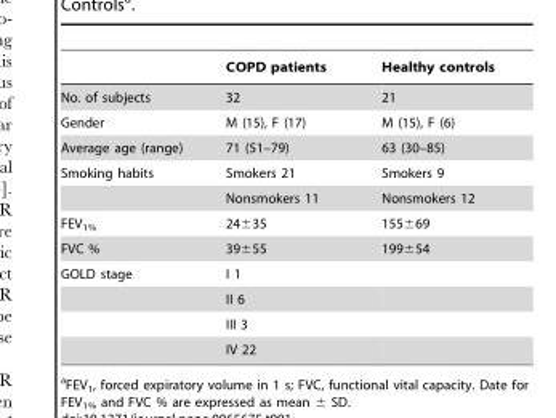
<table><thead><tr><td></td><td>COPD patients</td><td>Healthy controls</td></tr></thead><tbody><tr><td>No. of subjects</td><td>32</td><td>21</td></tr><tr><td>Gender</td><td>M (15), F (17)</td><td>M (15), F (6)</td></tr><tr><td>Average age (range)</td><td>71 (51–79)</td><td>63 (30–85)</td></tr><tr><td rowspan="2">Smoking habits</td><td>Smokers 21</td><td>Smokers 9</td></tr><tr><td>Nonsmokers 11</td><td>Nonsmokers 12</td></tr><tr><td>FEV<sub>1%</sub></td><td>24±35</td><td>155±69</td></tr><tr><td>FVC %</td><td>39±55</td><td>199±54</td></tr><tr><td rowspan="4">GOLD stage</td><td>I 1</td><td></td></tr><tr><td>II 6</td><td></td></tr><tr><td>III 3</td><td></td></tr><tr><td>IV 22</td><td></td></tr></tbody></table>